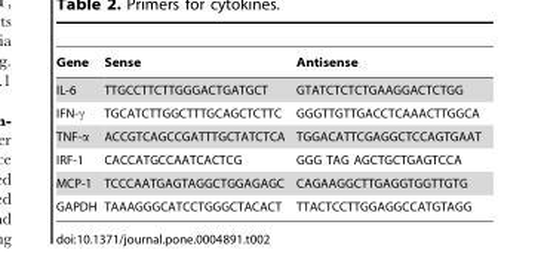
<table><thead><tr><td>Gene</td><td>Sense</td><td>Antisense</td></tr></thead><tbody><tr><td>IL-6</td><td>TTGCCTTCTTGGGACTGATGCT</td><td>GTATCTCTCTGAAGGACTCTGG</td></tr><tr><td>IFN-γ</td><td>TGCATCTTGGCTTTGCAGCTCTTC</td><td>GGGTTGTTGACCTCAAACTTGGCA</td></tr><tr><td>TNF-α</td><td>ACCGTCAGCCGATTTGCTATCTCA</td><td>TGGACATTCGAGGCTCCAGTGAAT</td></tr><tr><td>IRF-1</td><td>CACCATGCCAATCACTCG</td><td>GGG TAG AGCTGCTGAGTCCA</td></tr><tr><td>MCP-1</td><td>TCCCAATGAGTAGGCTGGAGAGC</td><td>CAGAAGGCTTGAGGTGGTTGTG</td></tr><tr><td>GAPDH</td><td>TAAAGGGCATCCTGGGCTACACT</td><td>TTACTCCTTGGAGGCCATGTAGG</td></tr></tbody></table>